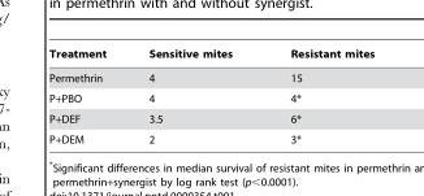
<table><thead><tr><td>Treatment</td><td>Sensitive mites</td><td>Resistant mites</td></tr></thead><tbody><tr><td>Permethrin</td><td>4</td><td>15</td></tr><tr><td>P+PBO</td><td>4</td><td>4*</td></tr><tr><td>P+DEF</td><td>3.5</td><td>6*</td></tr><tr><td>P+DEM</td><td>2</td><td>3*</td></tr></tbody></table>